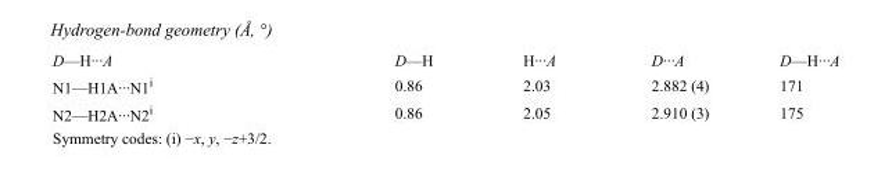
<table><tbody><tr><td>D—H···A</td><td>D—H</td><td>H···A</td><td>D···A</td><td>D—H···A</td></tr><tr><td>N1—H1A···N1<sup>i</sup></td><td>0.86</td><td>2.03</td><td>2.882 (4)</td><td>171</td></tr><tr><td>N2—H2A···N2<sup>i</sup></td><td>0.86</td><td>2.05</td><td>2.910 (3)</td><td>175</td></tr></tbody></table>